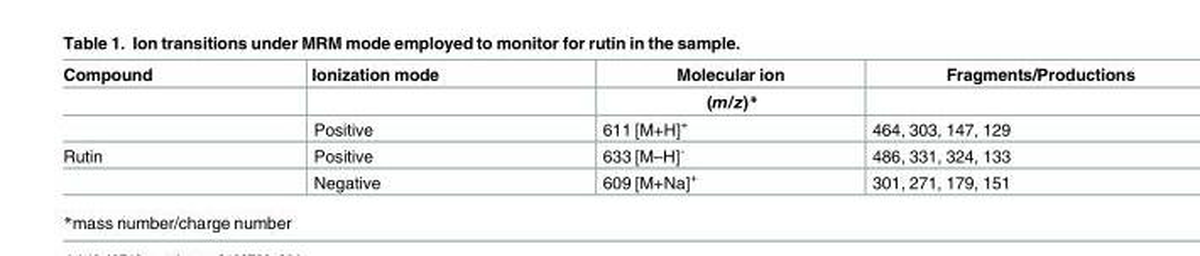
<table><thead><tr><td rowspan="2">Compound</td><td rowspan="2">Ionization mode</td><td rowspan="2">Molecular ion (m/z)*</td><td rowspan="2">Fragments/Productions</td></tr><tr></tr></thead><tbody><tr><td></td><td>Positive</td><td>611 [M+H]<sup>+</sup></td><td>464, 303, 147, 129</td></tr><tr><td rowspan="2">Rutin</td><td>Positive</td><td>633 [M–H]<sup>-</sup></td><td>486, 331, 324, 133</td></tr><tr><td>Negative</td><td>609 [M+Na]<sup>+</sup></td><td>301, 271, 179, 151</td></tr></tbody></table>